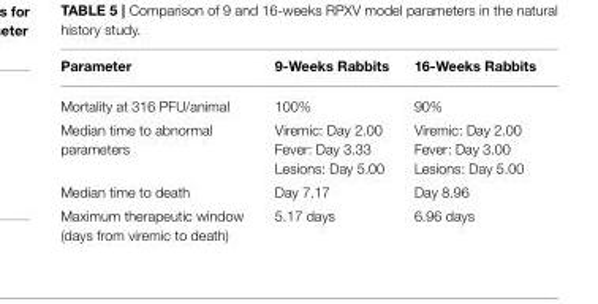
<table><thead><tr><td>Parameter</td><td>9-Weeks Rabbits</td><td>16-Weeks Rabbits</td></tr></thead><tbody><tr><td>Mortality at 316 PFU/animal</td><td>100%</td><td>90%</td></tr><tr><td>Median time to abnormal parameters</td><td>Viremic: Day 2.00 Fever: Day 3.33 Lesions: Day 5.00</td><td>Viremic: Day 2.00 Fever: Day 3.00 Lesions: Day 5.00</td></tr><tr><td>Median time to death</td><td>Day 7.17</td><td>Day 8.96</td></tr><tr><td>Maximum therapeutic window (days from viremic to death)</td><td>5.17 days</td><td>6.96 days</td></tr></tbody></table>